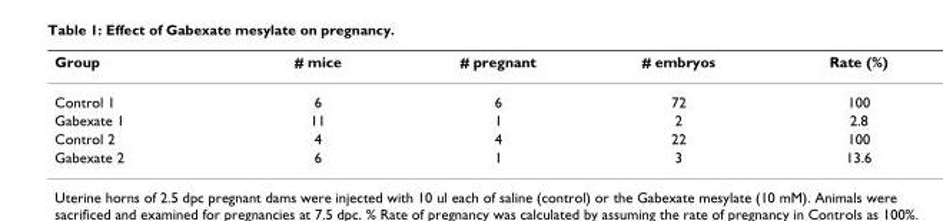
<table><thead><tr><td>Group</td><td># mice</td><td># pregnant</td><td># embryos</td><td>Rate (%)</td></tr></thead><tbody><tr><td>Control 1</td><td>6</td><td>6</td><td>72</td><td>100</td></tr><tr><td>Gabexate 1</td><td>11</td><td>1</td><td>2</td><td>2.8</td></tr><tr><td>Control 2</td><td>4</td><td>4</td><td>22</td><td>100</td></tr><tr><td>Gabexate 2</td><td>6</td><td>1</td><td>3</td><td>13.6</td></tr></tbody></table>